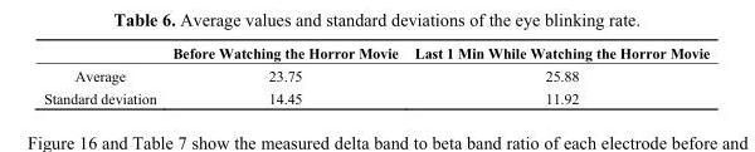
<table><thead><tr><td></td><td>Before Watching the Horror Movie</td><td>Last 1 Min While Watching the Horror Movie</td></tr></thead><tbody><tr><td>Average</td><td>23.75</td><td>25.88</td></tr><tr><td>Standard deviation</td><td>14.45</td><td>11.92</td></tr></tbody></table>